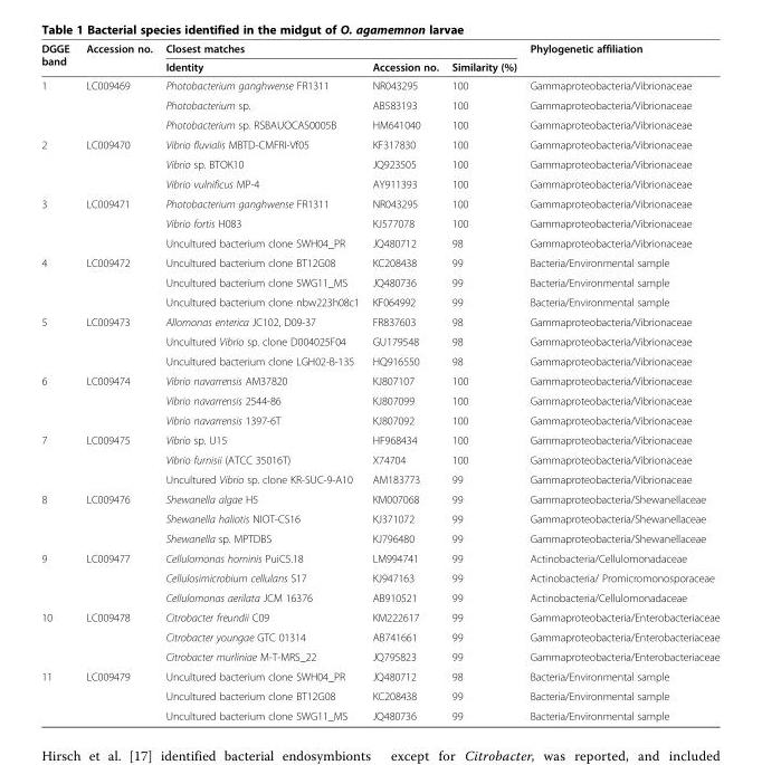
<table><thead><tr><td rowspan="2">DGGE band</td><td rowspan="2">Accession no.</td><td colspan="3">Closest matches</td><td rowspan="2">Phylogenetic affiliation</td></tr><tr><td>Identity</td><td>Accession no.</td><td>Similarity (%)</td></tr></thead><tbody><tr><td rowspan="3">1</td><td rowspan="3">LC009469</td><td>Photobacterium ganghwense FR1311</td><td>NR043295</td><td>100</td><td>Gammaproteobacteria/Vibrionaceae</td></tr><tr><td>Photobacterium sp.</td><td>AB583193</td><td>100</td><td>Gammaproteobacteria/Vibrionaceae</td></tr><tr><td>Photobacterium sp. RSBAUOCAS0005B</td><td>HM641040</td><td>100</td><td>Gammaproteobacteria/Vibrionaceae</td></tr><tr><td rowspan="3">2</td><td rowspan="3">LC009470</td><td>Vibrio fluvialis MBTD-CMFRI-Vf05</td><td>KF317830</td><td>100</td><td>Gammaproteobacteria/Vibrionaceae</td></tr><tr><td>Vibrio sp. BTOK10</td><td>JQ923505</td><td>100</td><td>Gammaproteobacteria/Vibrionaceae</td></tr><tr><td>Vibrio vulnificus MP-4</td><td>AY911393</td><td>100</td><td>Gammaproteobacteria/Vibrionaceae</td></tr><tr><td rowspan="3">3</td><td rowspan="3">LC009471</td><td>Photobacterium ganghwense FR1311</td><td>NR043295</td><td>100</td><td>Gammaproteobacteria/Vibrionaceae</td></tr><tr><td>Vibrio fortis H083</td><td>KJ577078</td><td>100</td><td>Gammaproteobacteria/Vibrionaceae</td></tr><tr><td>Uncultured bacterium clone SWH04_PR</td><td>JQ480712</td><td>98</td><td>Gammaproteobacteria/Vibrionaceae</td></tr><tr><td rowspan="3">4</td><td rowspan="3">LC009472</td><td>Uncultured bacterium clone BT12G08</td><td>KC208438</td><td>99</td><td>Bacteria/Environmental sample</td></tr><tr><td>Uncultured bacterium clone SWG11_MS</td><td>JQ480736</td><td>99</td><td>Bacteria/Environmental sample</td></tr><tr><td>Uncultured bacterium clone nbw223h08c1</td><td>KF064992</td><td>99</td><td>Bacteria/Environmental sample</td></tr><tr><td rowspan="3">5</td><td rowspan="3">LC009473</td><td>Allomonas enterica JC102, D09-37</td><td>FR837603</td><td>98</td><td>Gammaproteobacteria/Vibrionaceae</td></tr><tr><td>Uncultured Vibrio sp. clone D004025F04</td><td>GU179548</td><td>98</td><td>Gammaproteobacteria/Vibrionaceae</td></tr><tr><td>Uncultured bacterium clone LGH02-B-135</td><td>HQ916550</td><td>98</td><td>Gammaproteobacteria/Vibrionaceae</td></tr><tr><td rowspan="3">6</td><td rowspan="3">LC009474</td><td>Vibrio navarrensis AM37820</td><td>KJ807107</td><td>100</td><td>Gammaproteobacteria/Vibrionaceae</td></tr><tr><td>Vibrio navarrensis 2544-86</td><td>KJ807099</td><td>100</td><td>Gammaproteobacteria/Vibrionaceae</td></tr><tr><td>Vibrio navarrensis 1397-6T</td><td>KJ807092</td><td>100</td><td>Gammaproteobacteria/Vibrionaceae</td></tr><tr><td rowspan="3">7</td><td rowspan="3">LC009475</td><td>Vibrio sp. U15</td><td>HF968434</td><td>100</td><td>Gammaproteobacteria/Vibrionaceae</td></tr><tr><td>Vibrio furnisii (ATCC 35016T)</td><td>X74704</td><td>100</td><td>Gammaproteobacteria/Vibrionaceae</td></tr><tr><td>Uncultured Vibrio sp. clone KR-SUC-9-A10</td><td>AM183773</td><td>99</td><td>Gammaproteobacteria/Vibrionaceae</td></tr><tr><td rowspan="3">8</td><td rowspan="3">LC009476</td><td>Shewanella algae H5</td><td>KM007068</td><td>99</td><td>Gammaproteobacteria/Shewanellaceae</td></tr><tr><td>Shewanella haliotis NIOT-CS16</td><td>KJ371072</td><td>99</td><td>Gammaproteobacteria/Shewanellaceae</td></tr><tr><td>Shewanella sp. MPTDBS</td><td>KJ796480</td><td>99</td><td>Gammaproteobacteria/Shewanellaceae</td></tr><tr><td rowspan="3">9</td><td rowspan="3">LC009477</td><td>Cellulomonas hominis PuiC5.18</td><td>LM994741</td><td>99</td><td>Actinobacteria/Cellulomonadaceae</td></tr><tr><td>Cellulosimicrobium cellulans S17</td><td>KJ947163</td><td>99</td><td>Actinobacteria/ Promicromonosporaceae</td></tr><tr><td>Cellulomonas aerilata JCM 16376</td><td>AB910521</td><td>99</td><td>Actinobacteria/Cellulomonadaceae</td></tr><tr><td rowspan="3">10</td><td rowspan="3">LC009478</td><td>Citrobacter freundii C09</td><td>KM222617</td><td>99</td><td>Gammaproteobacteria/Enterobacteriaceae</td></tr><tr><td>Citrobacter youngae GTC 01314</td><td>AB741661</td><td>99</td><td>Gammaproteobacteria/Enterobacteriaceae</td></tr><tr><td>Citrobacter murliniae M-T-MRS_22</td><td>JQ795823</td><td>99</td><td>Gammaproteobacteria/Enterobacteriaceae</td></tr><tr><td rowspan="3">11</td><td rowspan="3">LC009479</td><td>Uncultured bacterium clone SWH04_PR</td><td>JQ480712</td><td>98</td><td>Bacteria/Environmental sample</td></tr><tr><td>Uncultured bacterium clone BT12G08</td><td>KC208438</td><td>99</td><td>Bacteria/Environmental sample</td></tr><tr><td>Uncultured bacterium clone SWG11_MS</td><td>JQ480736</td><td>99</td><td>Bacteria/Environmental sample</td></tr></tbody></table>